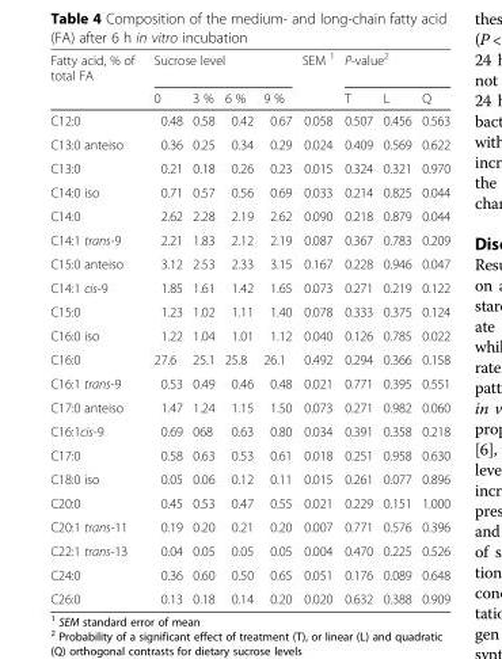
<table><thead><tr><td rowspan="2">Fatty acid, % of total FA</td><td colspan="4">Sucrose level</td><td rowspan="2">SEM <sup>1</sup></td><td colspan="3">P-value<sup>2</sup></td></tr><tr><td>0</td><td>3 %</td><td>6 %</td><td>9 %</td><td>T</td><td>L</td><td>Q</td></tr></thead><tbody><tr><td>C12:0</td><td>0.48</td><td>0.58</td><td>0.42</td><td>0.67</td><td>0.058</td><td>0.507</td><td>0.456</td><td>0.563</td></tr><tr><td>C13:0 anteiso</td><td>0.36</td><td>0.25</td><td>0.34</td><td>0.29</td><td>0.024</td><td>0.409</td><td>0.569</td><td>0.622</td></tr><tr><td>C13:0</td><td>0.21</td><td>0.18</td><td>0.26</td><td>0.23</td><td>0.015</td><td>0.324</td><td>0.321</td><td>0.970</td></tr><tr><td>C14:0 iso</td><td>0.71</td><td>0.57</td><td>0.56</td><td>0.69</td><td>0.033</td><td>0.214</td><td>0.825</td><td>0.044</td></tr><tr><td>C14:0</td><td>2.62</td><td>2.28</td><td>2.19</td><td>2.62</td><td>0.090</td><td>0.218</td><td>0.879</td><td>0.044</td></tr><tr><td>C14:1 trans-9</td><td>2.21</td><td>1.83</td><td>2.12</td><td>2.19</td><td>0.087</td><td>0.367</td><td>0.783</td><td>0.209</td></tr><tr><td>C15:0 anteiso</td><td>3.12</td><td>2.53</td><td>2.33</td><td>3.15</td><td>0.167</td><td>0.228</td><td>0.946</td><td>0.047</td></tr><tr><td>C14:1 cis-9</td><td>1.85</td><td>1.61</td><td>1.42</td><td>1.65</td><td>0.073</td><td>0.271</td><td>0.219</td><td>0.122</td></tr><tr><td>C15:0</td><td>1.23</td><td>1.02</td><td>1.11</td><td>1.40</td><td>0.078</td><td>0.333</td><td>0.375</td><td>0.124</td></tr><tr><td>C16:0 iso</td><td>1.22</td><td>1.04</td><td>1.01</td><td>1.12</td><td>0.040</td><td>0.126</td><td>0.785</td><td>0.022</td></tr><tr><td>C16:0</td><td>27.6</td><td>25.1</td><td>25.8</td><td>26.1</td><td>0.492</td><td>0.294</td><td>0.366</td><td>0.158</td></tr><tr><td>C16:1 trans-9</td><td>0.53</td><td>0.49</td><td>0.46</td><td>0.48</td><td>0.021</td><td>0.771</td><td>0.395</td><td>0.551</td></tr><tr><td>C17:0 anteiso</td><td>1.47</td><td>1.24</td><td>1.15</td><td>1.50</td><td>0.073</td><td>0.271</td><td>0.982</td><td>0.060</td></tr><tr><td>C16:1cis-9</td><td>0.69</td><td>068</td><td>0.63</td><td>0.80</td><td>0.034</td><td>0.391</td><td>0.358</td><td>0.218</td></tr><tr><td>C17:0</td><td>0.58</td><td>0.63</td><td>0.53</td><td>0.61</td><td>0.018</td><td>0.251</td><td>0.958</td><td>0.630</td></tr><tr><td>C18:0 iso</td><td>0.05</td><td>0.06</td><td>0.12</td><td>0.11</td><td>0.015</td><td>0.261</td><td>0.077</td><td>0.896</td></tr><tr><td>C20:0</td><td>0.45</td><td>0.53</td><td>0.47</td><td>0.55</td><td>0.021</td><td>0.229</td><td>0.151</td><td>1.000</td></tr><tr><td>C20:1 trans-11</td><td>0.19</td><td>0.20</td><td>0.21</td><td>0.20</td><td>0.007</td><td>0.771</td><td>0.576</td><td>0.396</td></tr><tr><td>C22:1 trans-13</td><td>0.04</td><td>0.05</td><td>0.05</td><td>0.05</td><td>0.004</td><td>0.470</td><td>0.225</td><td>0.526</td></tr><tr><td>C24:0</td><td>0.36</td><td>0.60</td><td>0.50</td><td>0.65</td><td>0.051</td><td>0.176</td><td>0.089</td><td>0.648</td></tr><tr><td>C26:0</td><td>0.13</td><td>0.18</td><td>0.14</td><td>0.20</td><td>0.020</td><td>0.632</td><td>0.388</td><td>0.909</td></tr></tbody></table>